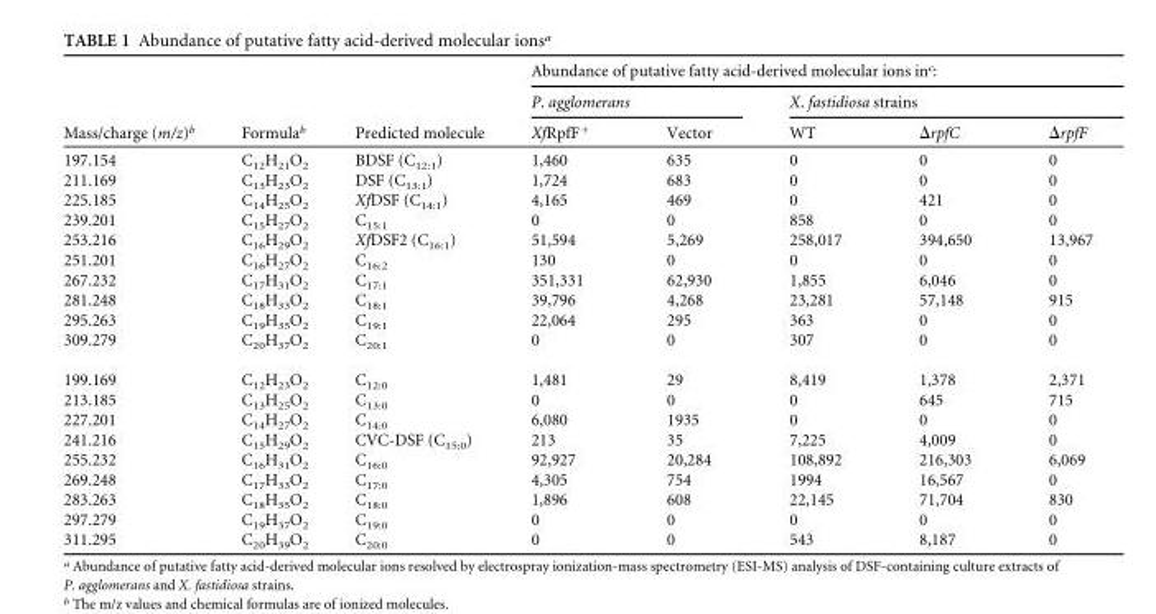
<table><thead><tr><td rowspan="3">Mass/charge (m/z)<sup>b</sup></td><td rowspan="3">Formula<sup>b</sup></td><td rowspan="3">Predicted molecule</td><td colspan="5">Abundance of putative fatty acid-derived molecular ions in<sup>c</sup>:</td></tr><tr><td colspan="2">P. agglomerans</td><td colspan="3">X. fastidiosa strains</td></tr><tr><td>XfRpfF<sup>+</sup></td><td>Vector</td><td>WT</td><td>ΔrpfC</td><td>ΔrpfF</td></tr></thead><tbody><tr><td>197.154</td><td>C<sub>12</sub>H<sub>21</sub>O<sub>2</sub></td><td>BDSF (C<sub>12:1</sub>)</td><td>1,460</td><td>635</td><td>0</td><td>0</td><td>0</td></tr><tr><td>211.169</td><td>C<sub>13</sub>H<sub>23</sub>O<sub>2</sub></td><td>DSF (C<sub>13:1</sub>)</td><td>1,724</td><td>683</td><td>0</td><td>0</td><td>0</td></tr><tr><td>225.185</td><td>C<sub>14</sub>H<sub>25</sub>O<sub>2</sub></td><td>XfDSF (C<sub>14:1</sub>)</td><td>4,165</td><td>469</td><td>0</td><td>421</td><td>0</td></tr><tr><td>239.201</td><td>C<sub>15</sub>H<sub>27</sub>O<sub>2</sub></td><td>C<sub>15:1</sub></td><td>0</td><td>0</td><td>858</td><td>0</td><td>0</td></tr><tr><td>253.216</td><td>C<sub>16</sub>H<sub>29</sub>O<sub>2</sub></td><td>XfDSF2 (C<sub>16:1</sub>)</td><td>51,594</td><td>5,269</td><td>258,017</td><td>394,650</td><td>13,967</td></tr><tr><td>251.201</td><td>C<sub>16</sub>H<sub>27</sub>O<sub>2</sub></td><td>C<sub>16:2</sub></td><td>130</td><td>0</td><td>0</td><td>0</td><td>0</td></tr><tr><td>267.232</td><td>C<sub>17</sub>H<sub>31</sub>O<sub>2</sub></td><td>C<sub>17:1</sub></td><td>351,331</td><td>62,930</td><td>1,855</td><td>6,046</td><td>0</td></tr><tr><td>281.248</td><td>C<sub>18</sub>H<sub>33</sub>O<sub>2</sub></td><td>C<sub>18:1</sub></td><td>39,796</td><td>4,268</td><td>23,281</td><td>57,148</td><td>915</td></tr><tr><td>295.263</td><td>C<sub>19</sub>H<sub>35</sub>O<sub>2</sub></td><td>C<sub>19:1</sub></td><td>22,064</td><td>295</td><td>363</td><td>0</td><td>0</td></tr><tr><td>309.279</td><td>C<sub>20</sub>H<sub>37</sub>O<sub>2</sub></td><td>C<sub>20:1</sub></td><td>0</td><td>0</td><td>307</td><td>0</td><td>0</td></tr><tr><td>199.169</td><td>C<sub>12</sub>H<sub>23</sub>O<sub>2</sub></td><td>C<sub>12:0</sub></td><td>1,481</td><td>29</td><td>8,419</td><td>1,378</td><td>2,371</td></tr><tr><td>213.185</td><td>C<sub>13</sub>H<sub>25</sub>O<sub>2</sub></td><td>C<sub>13:0</sub></td><td>0</td><td>0</td><td>0</td><td>645</td><td>715</td></tr><tr><td>227.201</td><td>C<sub>14</sub>H<sub>27</sub>O<sub>2</sub></td><td>C<sub>14:0</sub></td><td>6,080</td><td>1935</td><td>0</td><td>0</td><td>0</td></tr><tr><td>241.216</td><td>C<sub>15</sub>H<sub>29</sub>O<sub>2</sub></td><td>CVC-DSF (C<sub>15:0</sub>)</td><td>213</td><td>35</td><td>7,225</td><td>4,009</td><td>0</td></tr><tr><td>255.232</td><td>C<sub>16</sub>H<sub>31</sub>O<sub>2</sub></td><td>C<sub>16:0</sub></td><td>92,927</td><td>20,284</td><td>108,892</td><td>216,303</td><td>6,069</td></tr><tr><td>269.248</td><td>C<sub>17</sub>H<sub>33</sub>O<sub>2</sub></td><td>C<sub>17:0</sub></td><td>4,305</td><td>754</td><td>1994</td><td>16,567</td><td>0</td></tr><tr><td>283.263</td><td>C<sub>18</sub>H<sub>35</sub>O<sub>2</sub></td><td>C<sub>18:0</sub></td><td>1,896</td><td>608</td><td>22,145</td><td>71,704</td><td>830</td></tr><tr><td>297.279</td><td>C<sub>19</sub>H<sub>37</sub>O<sub>2</sub></td><td>C<sub>19:0</sub></td><td>0</td><td>0</td><td>0</td><td>0</td><td>0</td></tr><tr><td>311.295</td><td>C<sub>20</sub>H<sub>39</sub>O<sub>2</sub></td><td>C<sub>20:0</sub></td><td>0</td><td>0</td><td>543</td><td>8,187</td><td>0</td></tr></tbody></table>